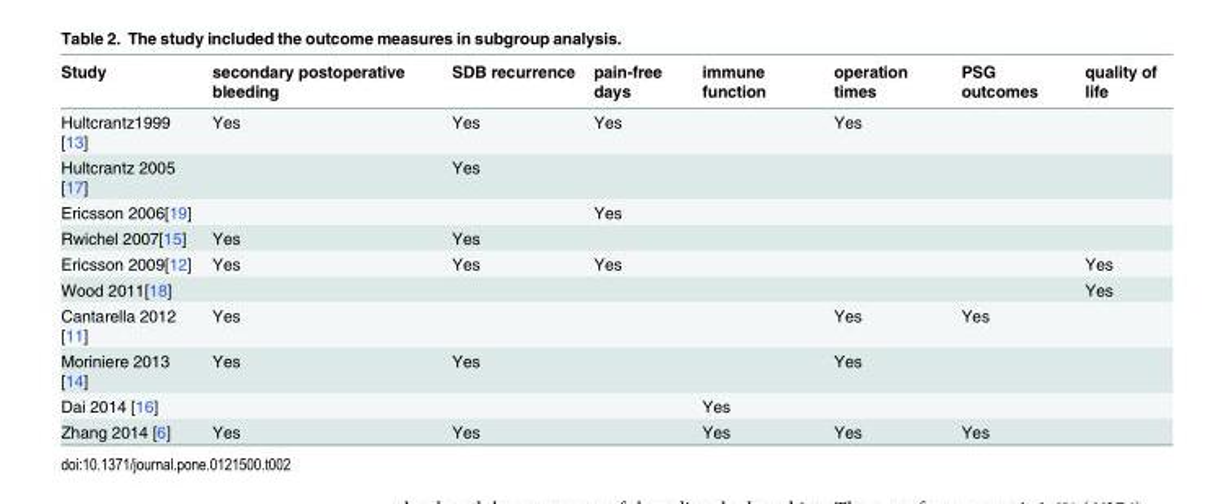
<table><thead><tr><td>Study</td><td>secondary postoperative bleeding</td><td>SDB recurrence</td><td>pain-free days</td><td>immune function</td><td>operation times</td><td>PSG outcomes</td><td>quality of life</td></tr></thead><tbody><tr><td>Hultcrantz1999 [13]</td><td>Yes</td><td>Yes</td><td>Yes</td><td></td><td>Yes</td><td></td><td></td></tr><tr><td>Hultcrantz 2005 [17]</td><td></td><td>Yes</td><td></td><td></td><td></td><td></td><td></td></tr><tr><td>Ericsson 2006[19]</td><td></td><td></td><td>Yes</td><td></td><td></td><td></td><td></td></tr><tr><td>Rwichel 2007[15]</td><td>Yes</td><td>Yes</td><td></td><td></td><td></td><td></td><td></td></tr><tr><td>Ericsson 2009[12]</td><td>Yes</td><td>Yes</td><td>Yes</td><td></td><td></td><td></td><td>Yes</td></tr><tr><td>Wood 2011[18]</td><td></td><td></td><td></td><td></td><td></td><td></td><td>Yes</td></tr><tr><td>Cantarella 2012 [11]</td><td>Yes</td><td></td><td></td><td></td><td>Yes</td><td>Yes</td><td></td></tr><tr><td>Moriniere 2013 [14]</td><td>Yes</td><td>Yes</td><td></td><td></td><td>Yes</td><td></td><td></td></tr><tr><td>Dai 2014 [16]</td><td></td><td></td><td></td><td>Yes</td><td></td><td></td><td></td></tr><tr><td>Zhang 2014 [6]</td><td>Yes</td><td>Yes</td><td></td><td>Yes</td><td>Yes</td><td>Yes</td><td></td></tr></tbody></table>